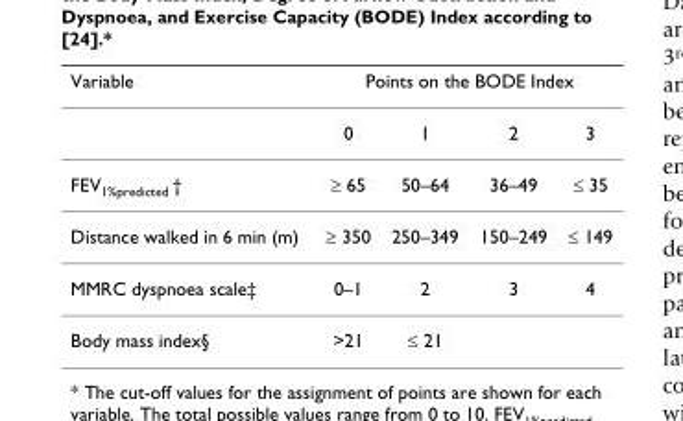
<table><thead><tr><td rowspan="2">Variable</td><td colspan="4">Points on the BODE Index</td></tr><tr><td>0</td><td>1</td><td>2</td><td>3</td></tr></thead><tbody><tr><td>FEV<sub>1%predicted</sub> †</td><td>≥ 65</td><td>50–64</td><td>36–49</td><td>≤ 35</td></tr><tr><td>Distance walked in 6 min (m)</td><td>≥ 350</td><td>250–349</td><td>150–249</td><td>≤ 149</td></tr><tr><td>MMRC dyspnoea scale‡</td><td>0–1</td><td>2</td><td>3</td><td>4</td></tr><tr><td>Body mass index§</td><td>&gt;21</td><td>≤ 21</td><td></td><td></td></tr></tbody></table>